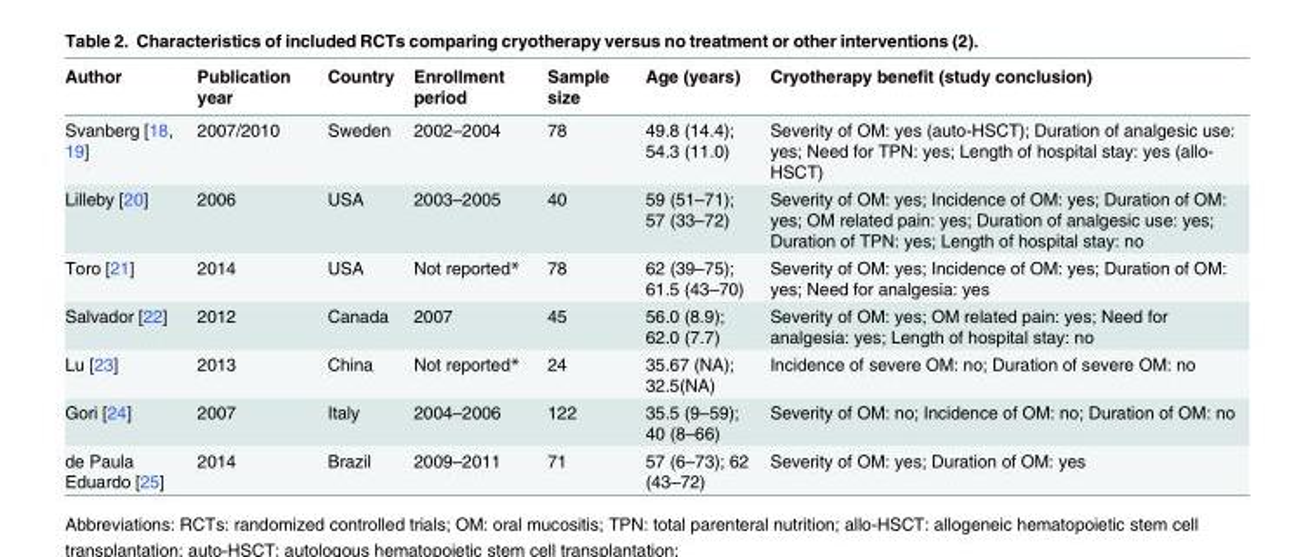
<table><thead><tr><td>Author</td><td>Publication year</td><td>Country</td><td>Enrollment period</td><td>Sample size</td><td>Age (years)</td><td>Cryotherapy benefit (study conclusion)</td></tr></thead><tbody><tr><td>Svanberg [18, 19]</td><td>2007/2010</td><td>Sweden</td><td>2002–2004</td><td>78</td><td>49.8 (14.4); 54.3 (11.0)</td><td>Severity of OM: yes (auto-HSCT); Duration of analgesic use: yes; Need for TPN: yes; Length of hospital stay: yes (allo- HSCT)</td></tr><tr><td>Lilleby [20]</td><td>2006</td><td>USA</td><td>2003–2005</td><td>40</td><td>59 (51–71); 57 (33–72)</td><td>Severity of OM: yes; Incidence of OM: yes; Duration of OM: yes; OM related pain: yes; Duration of analgesic use: yes; Duration of TPN: yes; Length of hospital stay: no</td></tr><tr><td>Toro [21]</td><td>2014</td><td>USA</td><td>Not reported*</td><td>78</td><td>62 (39–75); 61.5 (43–70)</td><td>Severity of OM: yes; Incidence of OM: yes; Duration of OM: yes; Need for analgesia: yes</td></tr><tr><td>Salvador [22]</td><td>2012</td><td>Canada</td><td>2007</td><td>45</td><td>56.0 (8.9); 62.0 (7.7)</td><td>Severity of OM: yes; OM related pain: yes; Need for analgesia: yes; Length of hospital stay: no</td></tr><tr><td>Lu [23]</td><td>2013</td><td>China</td><td>Not reported*</td><td>24</td><td>35.67 (NA); 32.5(NA)</td><td>Incidence of severe OM: no; Duration of severe OM: no</td></tr><tr><td>Gori [24]</td><td>2007</td><td>Italy</td><td>2004–2006</td><td>122</td><td>35.5 (9–59); 40 (8–66)</td><td>Severity of OM: no; Incidence of OM: no; Duration of OM: no</td></tr><tr><td>de Paula Eduardo [25]</td><td>2014</td><td>Brazil</td><td>2009–2011</td><td>71</td><td>57 (6–73); 62 (43–72)</td><td>Severity of OM: yes; Duration of OM: yes</td></tr></tbody></table>